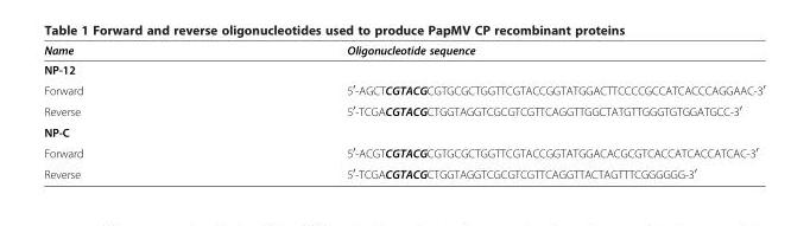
<table><thead><tr><td>Name</td><td>Oligonucleotide sequence</td></tr></thead><tbody><tr><td colspan="2">NP-12</td></tr><tr><td>Forward</td><td>5<sup>′</sup>-AGCTCGTACGCGTGCGCTGGTTCGTACCGGTATGGACTTCCCCGCCATCACCCAGGAAC-3<sup>′</sup></td></tr><tr><td>Reverse</td><td>5<sup>′</sup>-TCGACGTACGCTGGTAGGTCGCGTCGTTCAGGTTGGCTATGTTGGGTGTGGATGCC-3<sup>′</sup></td></tr><tr><td colspan="2">NP-C</td></tr><tr><td>Forward</td><td>5<sup>′</sup>-ACGTCGTACGCGTGCGCTGGTTCGTACCGGTATGGACACGCGTCACCATCACCATCAC-3<sup>′</sup></td></tr><tr><td>Reverse</td><td>5<sup>′</sup>-TCGACGTACGCTGGTAGGTCGCGTCGTTCAGGTTACTAGTTTCGGGGGG-3<sup>′</sup></td></tr></tbody></table>